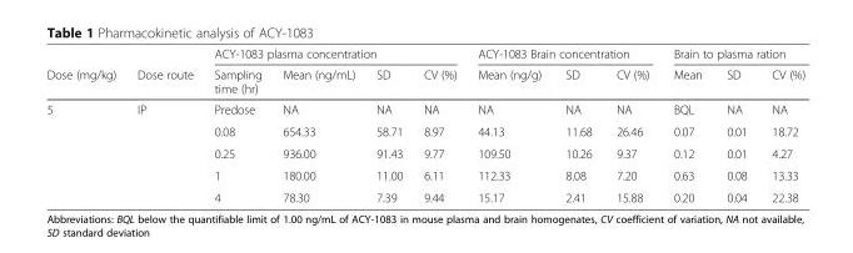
<table><thead><tr><td rowspan="2">Dose (mg/kg)</td><td rowspan="2">Dose route</td><td colspan="4">ACY-1083 plasma concentration</td><td colspan="3">ACY-1083 Brain concentration</td><td colspan="3">Brain to plasma ration</td></tr><tr><td>Sampling time (hr)</td><td>Mean (ng/mL)</td><td>SD</td><td>CV (%)</td><td>Mean (ng/g)</td><td>SD</td><td>CV (%)</td><td>Mean</td><td>SD</td><td>CV (%)</td></tr></thead><tbody><tr><td rowspan="5">5</td><td>IP</td><td>Predose</td><td>NA</td><td>NA</td><td>NA</td><td>NA</td><td>NA</td><td>NA</td><td>BQL</td><td>NA</td><td>NA</td></tr><tr><td></td><td>0.08</td><td>654.33</td><td>58.71</td><td>8.97</td><td>44.13</td><td>11.68</td><td>26.46</td><td>0.07</td><td>0.01</td><td>18.72</td></tr><tr><td></td><td>0.25</td><td>936.00</td><td>91.43</td><td>9.77</td><td>109.50</td><td>10.26</td><td>9.37</td><td>0.12</td><td>0.01</td><td>4.27</td></tr><tr><td></td><td>1</td><td>180.00</td><td>11.00</td><td>6.11</td><td>112.33</td><td>8.08</td><td>7.20</td><td>0.63</td><td>0.08</td><td>13.33</td></tr><tr><td></td><td>4</td><td>78.30</td><td>7.39</td><td>9.44</td><td>15.17</td><td>2.41</td><td>15.88</td><td>0.20</td><td>0.04</td><td>22.38</td></tr></tbody></table>